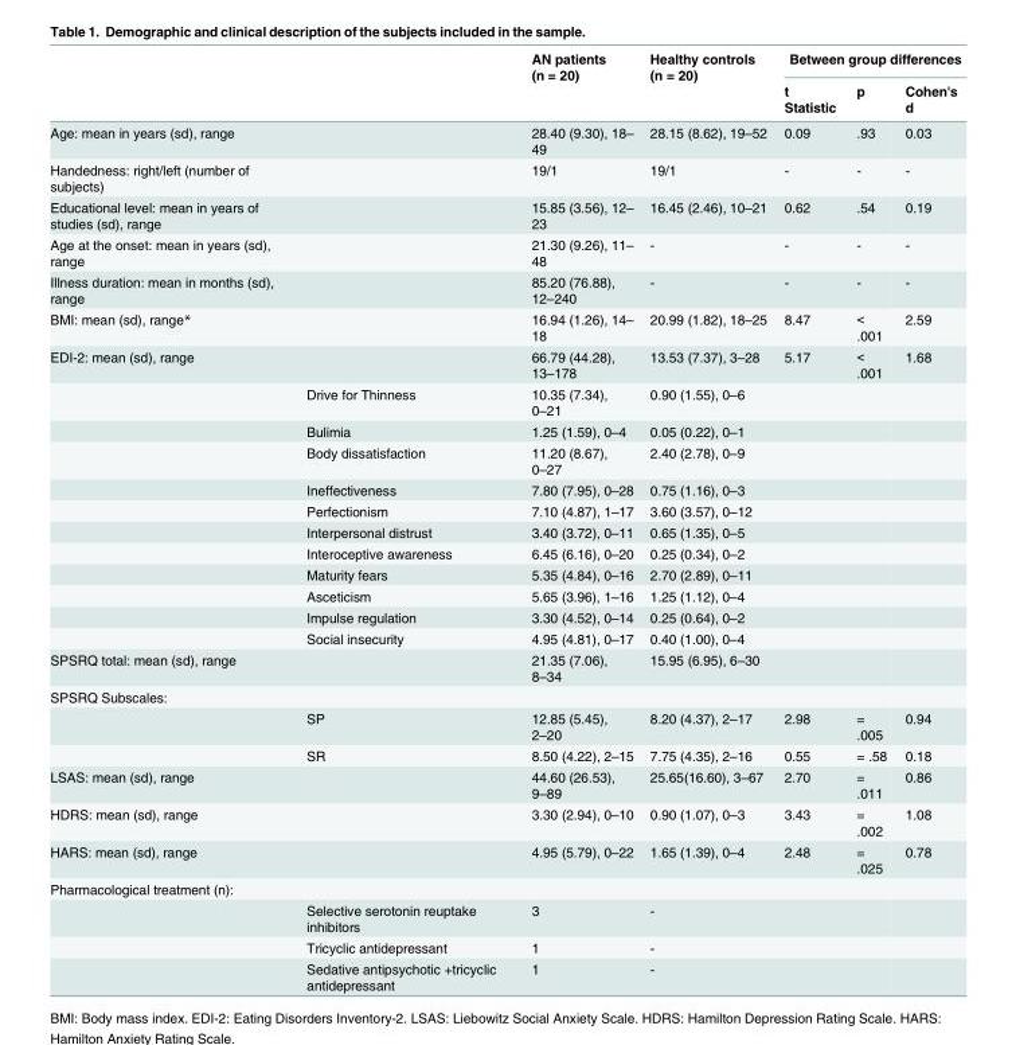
<table><thead><tr><td rowspan="2"></td><td rowspan="2"></td><td rowspan="2">AN patients (n = 20)</td><td rowspan="2">Healthy controls (n = 20)</td><td colspan="3">Between group differences</td></tr><tr><td>t Statistic</td><td>p</td><td>Cohen&#x27;s d</td></tr></thead><tbody><tr><td>Age: mean in years (sd), range</td><td></td><td>28.40 (9.30), 18– 49</td><td>28.15 (8.62), 19–52</td><td>0.09</td><td>.93</td><td>0.03</td></tr><tr><td>Handedness: right/left (number of subjects)</td><td></td><td>19/1</td><td>19/1</td><td>-</td><td>-</td><td>-</td></tr><tr><td>Educational level: mean in years of studies (sd), range</td><td></td><td>15.85 (3.56), 12– 23</td><td>16.45 (2.46), 10–21</td><td>0.62</td><td>.54</td><td>0.19</td></tr><tr><td>Age at the onset: mean in years (sd), range</td><td></td><td>21.30 (9.26), 11– 48</td><td>-</td><td>-</td><td>-</td><td>-</td></tr><tr><td>Illness duration: mean in months (sd), range</td><td></td><td>85.20 (76.88), 12–240</td><td>-</td><td>-</td><td>-</td><td>-</td></tr><tr><td>BMI: mean (sd), range*</td><td></td><td>16.94 (1.26), 14– 18</td><td>20.99 (1.82), 18–25</td><td>8.47</td><td>&lt; .001</td><td>2.59</td></tr><tr><td rowspan="12">EDI-2: mean (sd), range</td><td></td><td>66.79 (44.28), 13–178</td><td>13.53 (7.37), 3–28</td><td>5.17</td><td>&lt; .001</td><td>1.68</td></tr><tr><td>Drive for Thinness</td><td>10.35 (7.34), 0–21</td><td>0.90 (1.55), 0–6</td><td></td><td></td><td></td></tr><tr><td>Bulimia</td><td>1.25 (1.59), 0–4</td><td>0.05 (0.22), 0–1</td><td></td><td></td><td></td></tr><tr><td>Body dissatisfaction</td><td>11.20 (8.67), 0–27</td><td>2.40 (2.78), 0–9</td><td></td><td></td><td></td></tr><tr><td>Ineffectiveness</td><td>7.80 (7.95), 0–28</td><td>0.75 (1.16), 0–3</td><td></td><td></td><td></td></tr><tr><td>Perfectionism</td><td>7.10 (4.87), 1–17</td><td>3.60 (3.57), 0–12</td><td></td><td></td><td></td></tr><tr><td>Interpersonal distrust</td><td>3.40 (3.72), 0–11</td><td>0.65 (1.35), 0–5</td><td></td><td></td><td></td></tr><tr><td>Interoceptive awareness</td><td>6.45 (6.16), 0–20</td><td>0.25 (0.34), 0–2</td><td></td><td></td><td></td></tr><tr><td>Maturity fears</td><td>5.35 (4.84), 0–16</td><td>2.70 (2.89), 0–11</td><td></td><td></td><td></td></tr><tr><td>Asceticism</td><td>5.65 (3.96), 1–16</td><td>1.25 (1.12), 0–4</td><td></td><td></td><td></td></tr><tr><td>Impulse regulation</td><td>3.30 (4.52), 0–14</td><td>0.25 (0.64), 0–2</td><td></td><td></td><td></td></tr><tr><td>Social insecurity</td><td>4.95 (4.81), 0–17</td><td>0.40 (1.00), 0–4</td><td></td><td></td><td></td></tr><tr><td>SPSRQ total: mean (sd), range</td><td></td><td>21.35 (7.06), 8–34</td><td>15.95 (6.95), 6–30</td><td></td><td></td><td></td></tr><tr><td colspan="7">SPSRQ Subscales:</td></tr><tr><td></td><td>SP</td><td>12.85 (5.45), 2–20</td><td>8.20 (4.37), 2–17</td><td>2.98</td><td>= .005</td><td>0.94</td></tr><tr><td></td><td>SR</td><td>8.50 (4.22), 2–15</td><td>7.75 (4.35), 2–16</td><td>0.55</td><td>= .58</td><td>0.18</td></tr><tr><td>LSAS: mean (sd), range</td><td></td><td>44.60 (26.53), 9–89</td><td>25.65(16.60), 3–67</td><td>2.70</td><td>= .011</td><td>0.86</td></tr><tr><td>HDRS: mean (sd), range</td><td></td><td>3.30 (2.94), 0–10</td><td>0.90 (1.07), 0–3</td><td>3.43</td><td>= .002</td><td>1.08</td></tr><tr><td>HARS: mean (sd), range</td><td></td><td>4.95 (5.79), 0–22</td><td>1.65 (1.39), 0–4</td><td>2.48</td><td>= .025</td><td>0.78</td></tr><tr><td colspan="7">Pharmacological treatment (n):</td></tr><tr><td></td><td>Selective serotonin reuptake inhibitors</td><td>3</td><td>-</td><td></td><td></td><td></td></tr><tr><td></td><td>Tricyclic antidepressant</td><td>1</td><td>-</td><td></td><td></td><td></td></tr><tr><td></td><td>Sedative antipsychotic +tricyclic antidepressant</td><td>1</td><td>-</td><td></td><td></td><td></td></tr></tbody></table>